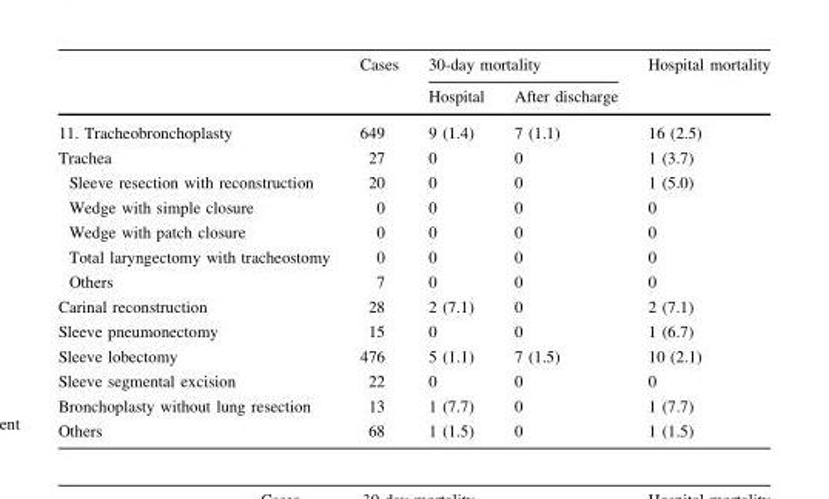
<table><thead><tr><td rowspan="2"></td><td rowspan="2">Cases</td><td colspan="2">30-day mortality</td><td rowspan="2">Hospital mortality</td></tr><tr><td>Hospital</td><td>After discharge</td></tr></thead><tbody><tr><td>11. Tracheobronchoplasty</td><td>649</td><td>9 (1.4)</td><td>7 (1.1)</td><td>16 (2.5)</td></tr><tr><td>Trachea</td><td>27</td><td>0</td><td>0</td><td>1 (3.7)</td></tr><tr><td>Sleeve resection with reconstruction</td><td>20</td><td>0</td><td>0</td><td>1 (5.0)</td></tr><tr><td>Wedge with simple closure</td><td>0</td><td>0</td><td>0</td><td>0</td></tr><tr><td>Wedge with patch closure</td><td>0</td><td>0</td><td>0</td><td>0</td></tr><tr><td>Total laryngectomy with tracheostomy</td><td>0</td><td>0</td><td>0</td><td>0</td></tr><tr><td>Others</td><td>7</td><td>0</td><td>0</td><td>0</td></tr><tr><td>Carinal reconstruction</td><td>28</td><td>2 (7.1)</td><td>0</td><td>2 (7.1)</td></tr><tr><td>Sleeve pneumonectomy</td><td>15</td><td>0</td><td>0</td><td>1 (6.7)</td></tr><tr><td>Sleeve lobectomy</td><td>476</td><td>5 (1.1)</td><td>7 (1.5)</td><td>10 (2.1)</td></tr><tr><td>Sleeve segmental excision</td><td>22</td><td>0</td><td>0</td><td>0</td></tr><tr><td>Bronchoplasty without lung resection</td><td>13</td><td>1 (7.7)</td><td>0</td><td>1 (7.7)</td></tr><tr><td>Others</td><td>68</td><td>1 (1.5)</td><td>0</td><td>1 (1.5)</td></tr></tbody></table>